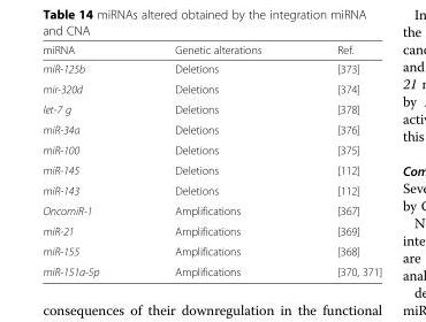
<table><thead><tr><td>miRNA</td><td>Genetic alterations</td><td>Ref.</td></tr></thead><tbody><tr><td>miR-125b</td><td>Deletions</td><td>[373]</td></tr><tr><td>mir-320d</td><td>Deletions</td><td>[374]</td></tr><tr><td>let-7 g</td><td>Deletions</td><td>[378]</td></tr><tr><td>miR-34a</td><td>Deletions</td><td>[376]</td></tr><tr><td>miR-100</td><td>Deletions</td><td>[375]</td></tr><tr><td>miR-145</td><td>Deletions</td><td>[112]</td></tr><tr><td>miR-143</td><td>Deletions</td><td>[112]</td></tr><tr><td>OncomiR-1</td><td>Amplifications</td><td>[367]</td></tr><tr><td>miR-21</td><td>Amplifications</td><td>[369]</td></tr><tr><td>miR-155</td><td>Amplifications</td><td>[368]</td></tr><tr><td>miR-151a-5p</td><td>Amplifications</td><td>[370, 371]</td></tr></tbody></table>